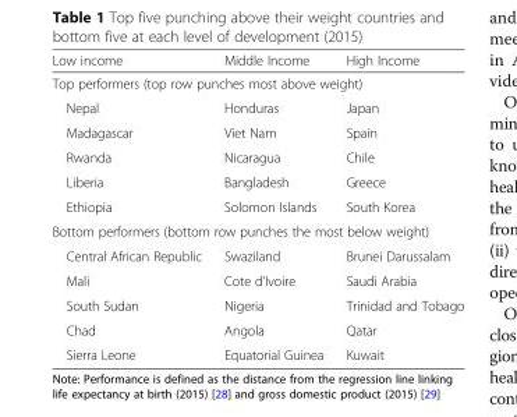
<table><thead><tr><td>Low income</td><td>Middle Income</td><td>High Income</td></tr></thead><tbody><tr><td colspan="3">Top performers (top row punches most above weight)</td></tr><tr><td>Nepal</td><td>Honduras</td><td>Japan</td></tr><tr><td>Madagascar</td><td>Viet Nam</td><td>Spain</td></tr><tr><td>Rwanda</td><td>Nicaragua</td><td>Chile</td></tr><tr><td>Liberia</td><td>Bangladesh</td><td>Greece</td></tr><tr><td>Ethiopia</td><td>Solomon Islands</td><td>South Korea</td></tr><tr><td colspan="3">Bottom performers (bottom row punches the most below weight)</td></tr><tr><td>Central African Republic</td><td>Swaziland</td><td>Brunei Darussalam</td></tr><tr><td>Mali</td><td>Cote d’Ivoire</td><td>Saudi Arabia</td></tr><tr><td>South Sudan</td><td>Nigeria</td><td>Trinidad and Tobago</td></tr><tr><td>Chad</td><td>Angola</td><td>Qatar</td></tr><tr><td>Sierra Leone</td><td>Equatorial Guinea</td><td>Kuwait</td></tr></tbody></table>